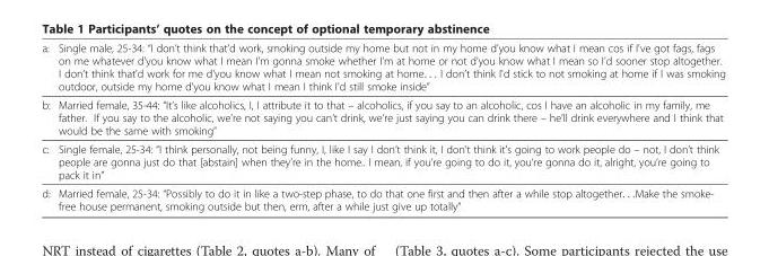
<table><tbody><tr><td>a:</td><td>Single male, 25-34: “I don’t think that&#x27;d work, smoking outside my home but not in my home d&#x27;you know what I mean cos if I&#x27;ve got fags, fags on me whatever d&#x27;you know what I mean I&#x27;m gonna smoke whether I&#x27;m at home or not d&#x27;you know what I mean so I&#x27;d sooner stop altogether. I don’t think that&#x27;d work for me d&#x27;you know what I mean not smoking at home. . . I don’t think I&#x27;d stick to not smoking at home if I was smoking outdoor, outside my home d&#x27;you know what I mean I think I&#x27;d still smoke inside”</td></tr><tr><td>b:</td><td>Married female, 35-44: “It’s like alcoholics, I, I attribute it to that – alcoholics, if you say to an alcoholic, cos I have an alcoholic in my family, me father. If you say to the alcoholic, we’re not saying you can’t drink, we’re just saying you can drink there – he’ll drink everywhere and I think that would be the same with smoking”</td></tr><tr><td>c:</td><td>Single female, 25-34: “I think personally, not being funny, I, like I say I don’t think it, I don’t think it’s going to work people do – not, I don’t think people are gonna just do that [abstain] when they’re in the home.. I mean, if you’re going to do it, you’re gonna do it, alright, you’re going to pack it in”</td></tr><tr><td>d:</td><td>Married female, 25-34: “Possibly to do it in like a two-step phase, to do that one first and then after a while stop altogether. . .Make the smoke- free house permanent, smoking outside but then, erm, after a while just give up totally”</td></tr></tbody></table>